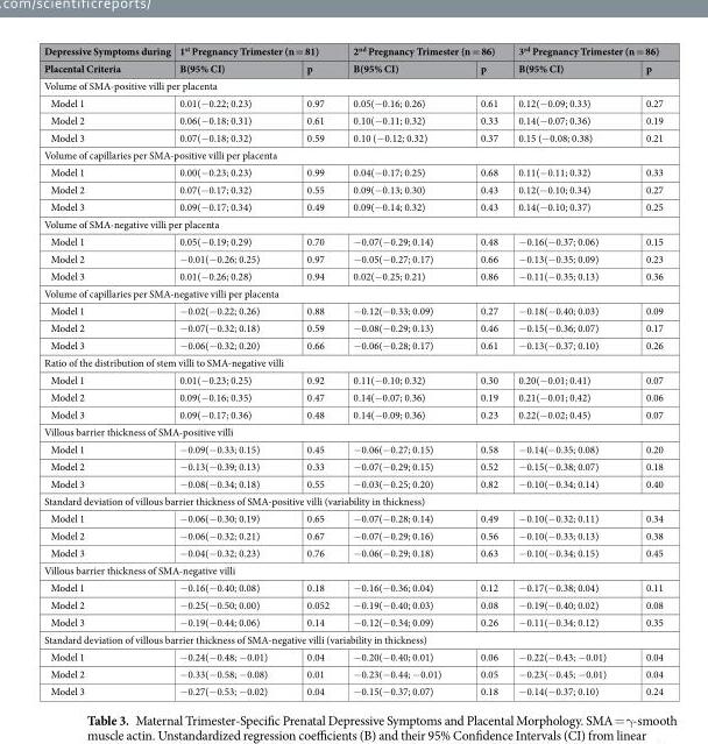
<table><thead><tr><td rowspan="2">Depressive Symptoms during Placental Criteria</td><td colspan="2">1<sup>st</sup> Pregnancy Trimester (n = 81)</td><td colspan="2">2<sup>nd</sup> Pregnancy Trimester (n = 86)</td><td colspan="2">3<sup>rd</sup> Pregnancy Trimester (n = 86)</td></tr><tr><td>B(95% CI)</td><td>p</td><td>B(95% CI)</td><td>p</td><td>B(95% CI)</td><td>p</td></tr></thead><tbody><tr><td colspan="7">Volume of SMA-positive villi per placenta</td></tr><tr><td>Model 1</td><td>0.01(−0.22; 0.23)</td><td>0.97</td><td>0.05(−0.16; 0.26)</td><td>0.61</td><td>0.12(−0.09; 0.33)</td><td>0.27</td></tr><tr><td>Model 2</td><td>0.06(−0.18; 0.31)</td><td>0.61</td><td>0.10(−0.11; 0.32)</td><td>0.33</td><td>0.14(−0.07; 0.36)</td><td>0.19</td></tr><tr><td>Model 3</td><td>0.07(−0.18; 0.32)</td><td>0.59</td><td>0.10 (−0.12; 0.32)</td><td>0.37</td><td>0.15 (−0.08; 0.38)</td><td>0.21</td></tr><tr><td colspan="7">Volume of capillaries per SMA-positive villi per placenta</td></tr><tr><td>Model 1</td><td>0.00(−0.23; 0.23)</td><td>0.99</td><td>0.04(−0.17; 0.25)</td><td>0.68</td><td>0.11(−0.11; 0.32)</td><td>0.33</td></tr><tr><td>Model 2</td><td>0.07(−0.17; 0.32)</td><td>0.55</td><td>0.09(−0.13; 0.30)</td><td>0.43</td><td>0.12(−0.10; 0.34)</td><td>0.27</td></tr><tr><td>Model 3</td><td>0.09(−0.17; 0.34)</td><td>0.49</td><td>0.09(−0.14; 0.32)</td><td>0.43</td><td>0.14(−0.10; 0.37)</td><td>0.25</td></tr><tr><td colspan="7">Volume of SMA-negative villi per placenta</td></tr><tr><td>Model 1</td><td>0.05(−0.19; 0.29)</td><td>0.70</td><td>−0.07(−0.29; 0.14)</td><td>0.48</td><td>−0.16(−0.37; 0.06)</td><td>0.15</td></tr><tr><td>Model 2</td><td>−0.01(−0.26; 0.25)</td><td>0.97</td><td>−0.05(−0.27; 0.17)</td><td>0.66</td><td>−0.13(−0.35; 0.09)</td><td>0.23</td></tr><tr><td>Model 3</td><td>0.01(−0.26; 0.28)</td><td>0.94</td><td>0.02(−0.25; 0.21)</td><td>0.86</td><td>−0.11(−0.35; 0.13)</td><td>0.36</td></tr><tr><td colspan="7">Volume of capillaries per SMA-negative villi per placenta</td></tr><tr><td>Model 1</td><td>−0.02(−0.22; 0.26)</td><td>0.88</td><td>−0.12(−0.33; 0.09)</td><td>0.27</td><td>−0.18(−0.40; 0.03)</td><td>0.09</td></tr><tr><td>Model 2</td><td>−0.07(−0.32; 0.18)</td><td>0.59</td><td>−0.08(−0.29; 0.13)</td><td>0.46</td><td>−0.15(−0.36; 0.07)</td><td>0.17</td></tr><tr><td>Model 3</td><td>−0.06(−0.32; 0.20)</td><td>0.66</td><td>−0.06(−0.28; 0.17)</td><td>0.61</td><td>−0.13(−0.37; 0.10)</td><td>0.26</td></tr><tr><td colspan="7">Ratio of the distribution of stem villi to SMA-negative villi</td></tr><tr><td>Model 1</td><td>0.01(−0.23; 0.25)</td><td>0.92</td><td>0.11(−0.10; 0.32)</td><td>0.30</td><td>0.20(−0.01; 0.41)</td><td>0.07</td></tr><tr><td>Model 2</td><td>0.09(−0.16; 0.35)</td><td>0.47</td><td>0.14(−0.07; 0.36)</td><td>0.19</td><td>0.21(−0.01; 0.42)</td><td>0.06</td></tr><tr><td>Model 3</td><td>0.09(−0.17; 0.36)</td><td>0.48</td><td>0.14(−0.09; 0.36)</td><td>0.23</td><td>0.22(−0.02; 0.45)</td><td>0.07</td></tr><tr><td colspan="7">Villous barrier thickness of SMA-positive villi</td></tr><tr><td>Model 1</td><td>−0.09(−0.33; 0.15)</td><td>0.45</td><td>−0.06(−0.27; 0.15)</td><td>0.58</td><td>−0.14(−0.35; 0.08)</td><td>0.20</td></tr><tr><td>Model 2</td><td>−0.13(−0.39; 0.13)</td><td>0.33</td><td>−0.07(−0.29; 0.15)</td><td>0.52</td><td>−0.15(−0.38; 0.07)</td><td>0.18</td></tr><tr><td>Model 3</td><td>−0.08(−0.34; 0.18)</td><td>0.55</td><td>−0.03(−0.25; 0.20)</td><td>0.82</td><td>−0.10(−0.34; 0.14)</td><td>0.40</td></tr><tr><td colspan="7">Standard deviation of villous barrier thickness of SMA-positive villi (variability in thickness)</td></tr><tr><td>Model 1</td><td>−0.06(−0.30; 0.19)</td><td>0.65</td><td>−0.07(−0.28; 0.14)</td><td>0.49</td><td>−0.10(−0.32; 0.11)</td><td>0.34</td></tr><tr><td>Model 2</td><td>−0.06(−0.32; 0.21)</td><td>0.67</td><td>−0.07(−0.29; 0.16)</td><td>0.56</td><td>−0.10(−0.33; 0.13)</td><td>0.38</td></tr><tr><td>Model 3</td><td>−0.04(−0.32; 0.23)</td><td>0.76</td><td>−0.06(−0.29; 0.18)</td><td>0.63</td><td>−0.10(−0.34; 0.15)</td><td>0.45</td></tr><tr><td colspan="7">Villous barrier thickness of SMA-negative villi</td></tr><tr><td>Model 1</td><td>−0.16(−0.40; 0.08)</td><td>0.18</td><td>−0.16(−0.36; 0.04)</td><td>0.12</td><td>−0.17(−0.38; 0.04)</td><td>0.11</td></tr><tr><td>Model 2</td><td>−0.25(−0.50; 0.00)</td><td>0.052</td><td>−0.19(−0.40; 0.03)</td><td>0.08</td><td>−0.19(−0.40; 0.02)</td><td>0.08</td></tr><tr><td>Model 3</td><td>−0.19(−0.44; 0.06)</td><td>0.14</td><td>−0.12(−0.34; 0.09)</td><td>0.26</td><td>−0.11(−0.34; 0.12)</td><td>0.35</td></tr><tr><td colspan="7">Standard deviation of villous barrier thickness of SMA-negative villi (variability in thickness)</td></tr><tr><td>Model 1</td><td>−0.24(−0.48; −0.01)</td><td>0.04</td><td>−0.20(−0.40; 0.01)</td><td>0.06</td><td>−0.22(−0.43; −0.01)</td><td>0.04</td></tr><tr><td>Model 2</td><td>−0.33(−0.58; −0.08)</td><td>0.01</td><td>−0.23(−0.44; −0.01)</td><td>0.05</td><td>−0.23(−0.45; −0.01)</td><td>0.04</td></tr><tr><td>Model 3</td><td>−0.27(−0.53; −0.02)</td><td>0.04</td><td>−0.15(−0.37; 0.07)</td><td>0.18</td><td>−0.14(−0.37; 0.10)</td><td>0.24</td></tr></tbody></table>